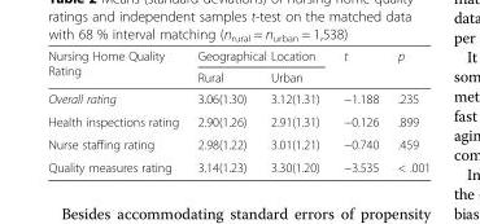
<table><thead><tr><td rowspan="2">Nursing Home Quality Rating</td><td colspan="2">Geographical Location</td><td rowspan="2">t</td><td rowspan="2">p</td></tr><tr><td>Rural</td><td>Urban</td></tr></thead><tbody><tr><td>Overall rating</td><td>3.06(1.30)</td><td>3.12(1.31)</td><td>−1.188</td><td>.235</td></tr><tr><td>Health inspections rating</td><td>2.90(1.26)</td><td>2.91(1.31)</td><td>−0.126</td><td>.899</td></tr><tr><td>Nurse staffing rating</td><td>2.98(1.22)</td><td>3.01(1.21)</td><td>−0.740</td><td>.459</td></tr><tr><td>Quality measures rating</td><td>3.14(1.23)</td><td>3.30(1.20)</td><td>−3.535</td><td>&lt; .001</td></tr></tbody></table>